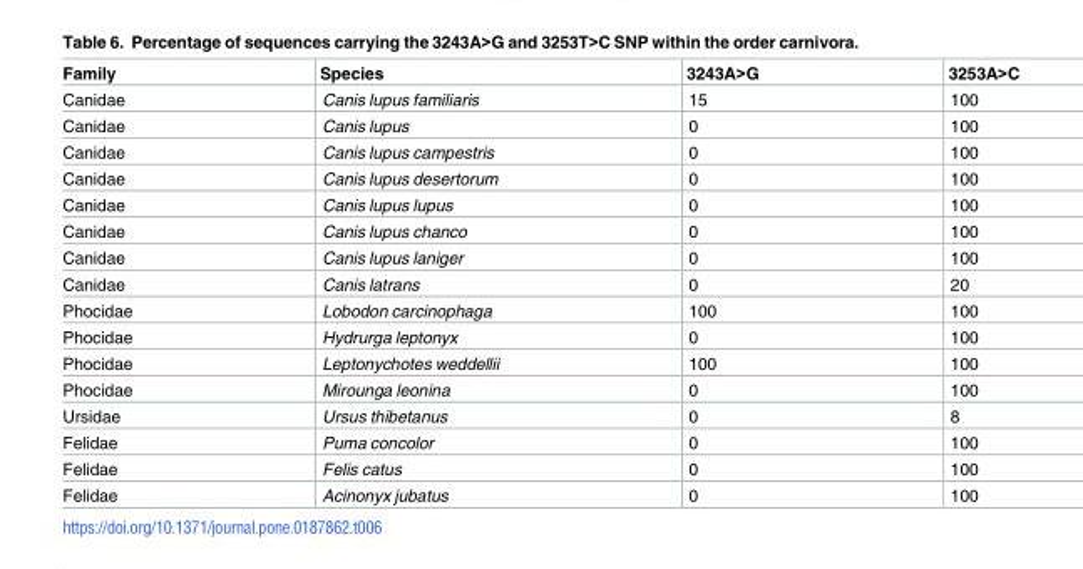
<table><thead><tr><td>Family</td><td>Species</td><td>3243A&gt;G</td><td>3253A&gt;C</td></tr></thead><tbody><tr><td>Canidae</td><td>Canis lupus familiaris</td><td>15</td><td>100</td></tr><tr><td>Canidae</td><td>Canis lupus</td><td>0</td><td>100</td></tr><tr><td>Canidae</td><td>Canis lupus campestris</td><td>0</td><td>100</td></tr><tr><td>Canidae</td><td>Canis lupus desertorum</td><td>0</td><td>100</td></tr><tr><td>Canidae</td><td>Canis lupus lupus</td><td>0</td><td>100</td></tr><tr><td>Canidae</td><td>Canis lupus chanco</td><td>0</td><td>100</td></tr><tr><td>Canidae</td><td>Canis lupus laniger</td><td>0</td><td>100</td></tr><tr><td>Canidae</td><td>Canis latrans</td><td>0</td><td>20</td></tr><tr><td>Phocidae</td><td>Lobodon carcinophaga</td><td>100</td><td>100</td></tr><tr><td>Phocidae</td><td>Hydrurga leptonyx</td><td>0</td><td>100</td></tr><tr><td>Phocidae</td><td>Leptonychotes weddellii</td><td>100</td><td>100</td></tr><tr><td>Phocidae</td><td>Mirounga leonina</td><td>0</td><td>100</td></tr><tr><td>Ursidae</td><td>Ursus thibetanus</td><td>0</td><td>8</td></tr><tr><td>Felidae</td><td>Puma concolor</td><td>0</td><td>100</td></tr><tr><td>Felidae</td><td>Felis catus</td><td>0</td><td>100</td></tr><tr><td>Felidae</td><td>Acinonyx jubatus</td><td>0</td><td>100</td></tr></tbody></table>